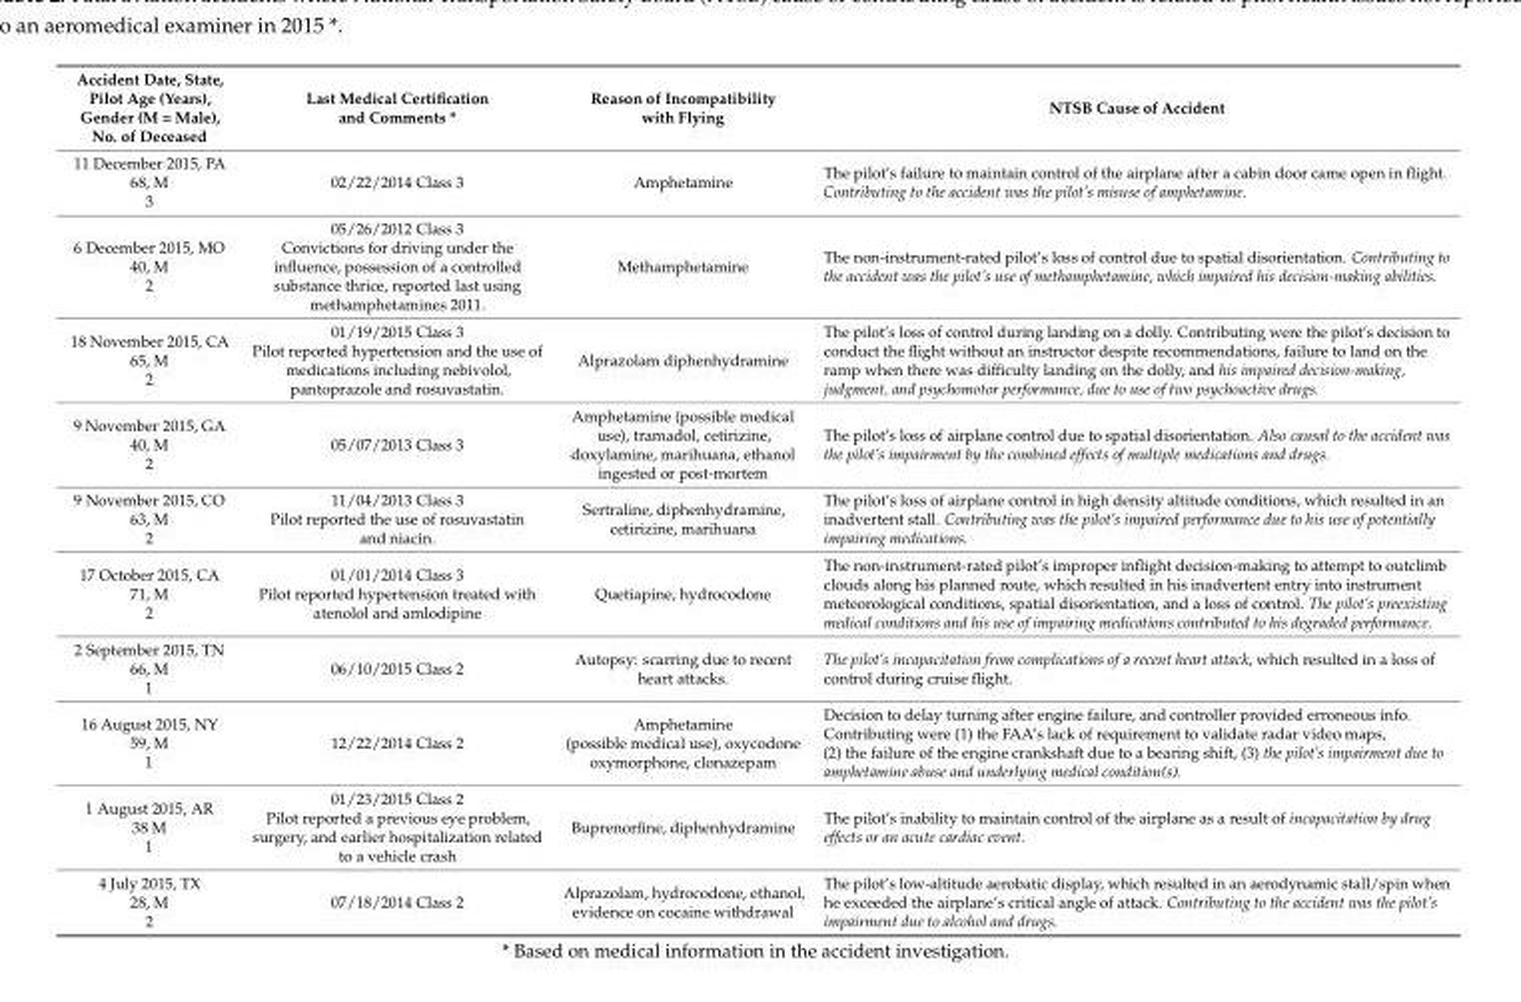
<table><thead><tr><td>Accident Date, State, Pilot Age (Years), Gender (M = Male), No. of Deceased</td><td>Last Medical Certification and Comments *</td><td>Reason of Incompatibility with Flying</td><td>NTSB Cause of Accident</td></tr></thead><tbody><tr><td>11 December 2015, PA 68, M 3</td><td>02/22/2014 Class 3</td><td>Amphetamine</td><td>The pilot’s failure to maintain control of the airplane after a cabin door came open in flight. Contributing to the accident was the pilot’s misuse of amphetamine.</td></tr><tr><td>6 December 2015, MO 40, M 2</td><td>05/26/2012 Class 3 Convictions for driving under the influence, possession of a controlled substance thrice, reported last using methamphetamines 2011.</td><td>Methamphetamine</td><td>The non-instrument-rated pilot’s loss of control due to spatial disorientation. Contributing to the accident was the pilot’s use of methamphetamine, which impaired his decision-making abilities.</td></tr><tr><td>18 November 2015, CA 65, M 2</td><td>01/19/2015 Class 3 Pilot reported hypertension and the use of medications including nebivolol, pantoprazole and rosuvastatin.</td><td>Alprazolam diphenhydramine</td><td>The pilot’s loss of control during landing on a dolly. Contributing were the pilot’s decision to conduct the flight without an instructor despite recommendations, failure to land on the ramp when there was difficulty landing on the dolly, and his impaired decision-making, judgment, and psychomotor performance, due to use of two psychoactive drugs.</td></tr><tr><td>9 November 2015, GA 40, M 2</td><td>05/07/2013 Class 3</td><td>Amphetamine (possible medical use), tramadol, cetirizine, doxylamine, marihuana, ethanol ingested or post-mortem</td><td>The pilot’s loss of airplane control due to spatial disorientation. Also causal to the accident was the pilot’s impairment by the combined effects of multiple medications and drugs.</td></tr><tr><td>9 November 2015, CO 63, M 2</td><td>11/04/2013 Class 3 Pilot reported the use of rosuvastatin and niacin.</td><td>Sertraline, diphenhydramine, cetirizine, marihuana</td><td>The pilot’s loss of airplane control in high density altitude conditions, which resulted in an inadvertent stall. Contributing was the pilot’s impaired performance due to his use of potentially impairing medications.</td></tr><tr><td>17 October 2015, CA 71, M 2</td><td>01/01/2014 Class 3 Pilot reported hypertension treated with atenolol and amlodipine</td><td>Quetiapine, hydrocodone</td><td>The non-instrument-rated pilot’s improper inflight decision-making to attempt to outclimb clouds along his planned route, which resulted in his inadvertent entry into instrument meteorological conditions, spatial disorientation, and a loss of control. The pilot’s preexisting medical conditions and his use of impairing medications contributed to his degraded performance.</td></tr><tr><td>2 September 2015, TN 66, M 1</td><td>06/10/2015 Class 2</td><td>Autopsy: scarring due to recent heart attacks.</td><td>The pilot’s incapacitation from complications of a recent heart attack, which resulted in a loss of control during cruise flight.</td></tr><tr><td>16 August 2015, NY 59, M 1</td><td>12/22/2014 Class 2</td><td>Amphetamine (possible medical use), oxycodone oxymorphone, clonazepam</td><td>Decision to delay turning after engine failure, and controller provided erroneous info. Contributing were (1) the FAA’s lack of requirement to validate radar video maps, (2) the failure of the engine crankshaft due to a bearing shift, (3) the pilot’s impairment due to amphetamine abuse and underlying medical condition(s).</td></tr><tr><td>1 August 2015, AR 38 M 1</td><td>01/23/2015 Class 2 Pilot reported a previous eye problem, surgery, and earlier hospitalization related to a vehicle crash</td><td>Buprenorfine, diphenhydramine</td><td>The pilot’s inability to maintain control of the airplane as a result of incapacitation by drug effects or an acute cardiac event.</td></tr><tr><td>4 July 2015, TX 28, M 2</td><td>07/18/2014 Class 2</td><td>Alprazolam, hydrocodone, ethanol, evidence on cocaine withdrawal</td><td>The pilot’s low-altitude aerobatic display, which resulted in an aerodynamic stall/spin when he exceeded the airplane’s critical angle of attack. Contributing to the accident was the pilot’s impairment due to alcohol and drugs.</td></tr></tbody></table>